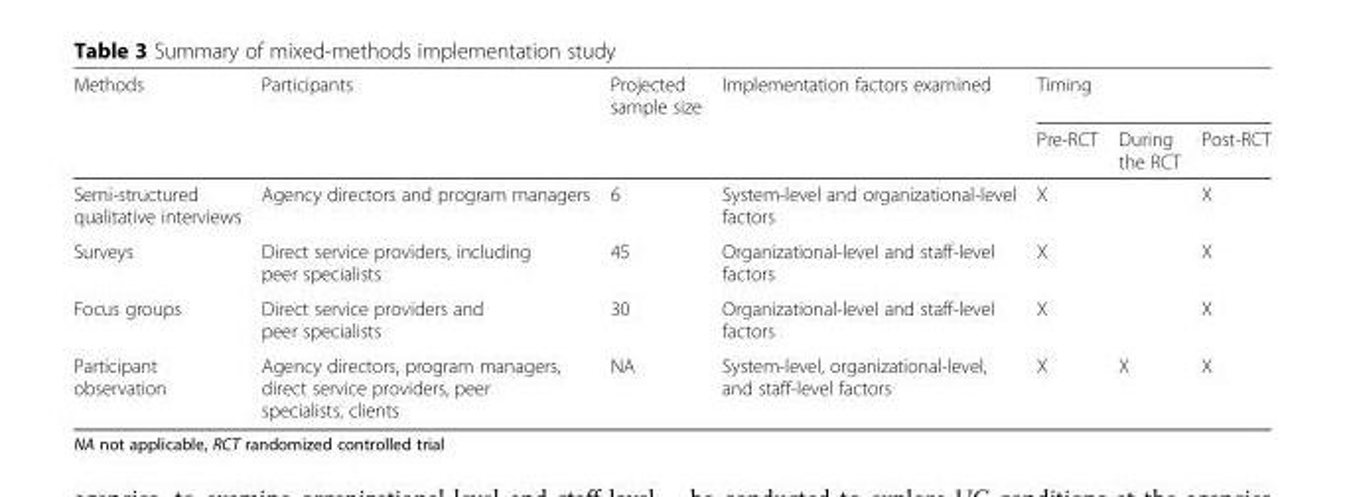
<table><thead><tr><td rowspan="2">Methods</td><td rowspan="2">Participants</td><td rowspan="2">Projected sample size</td><td rowspan="2">Implementation factors examined</td><td colspan="3">Timing</td></tr><tr><td>Pre-RCT</td><td>During the RCT</td><td>Post-RCT</td></tr></thead><tbody><tr><td>Semi-structured qualitative interviews</td><td>Agency directors and program managers</td><td>6</td><td>System-level and organizational-level factors</td><td>X</td><td></td><td>X</td></tr><tr><td>Surveys</td><td>Direct service providers, including peer specialists</td><td>45</td><td>Organizational-level and staff-level factors</td><td>X</td><td></td><td>X</td></tr><tr><td>Focus groups</td><td>Direct service providers and peer specialists</td><td>30</td><td>Organizational-level and staff-level factors</td><td>X</td><td></td><td>X</td></tr><tr><td>Participant observation</td><td>Agency directors, program managers, direct service providers, peer specialists, clients</td><td>NA</td><td>System-level, organizational-level, and staff-level factors</td><td>X</td><td>X</td><td>X</td></tr></tbody></table>